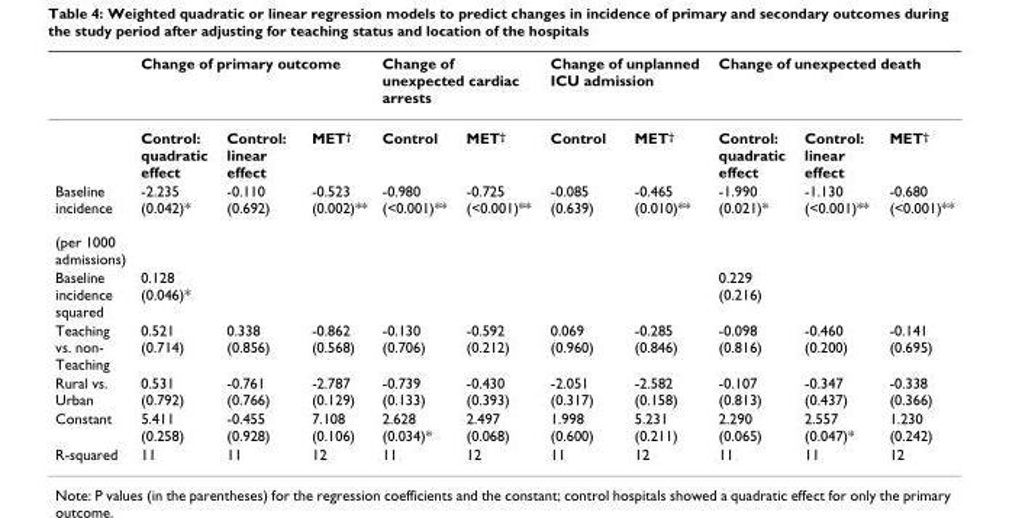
<table><thead><tr><td rowspan="2"></td><td colspan="3">Change of primary outcome</td><td colspan="2">Change of unexpected cardiac arrests</td><td colspan="2">Change of unplanned ICU admission</td><td colspan="3">Change of unexpected death</td></tr><tr><td>Control: quadratic effect</td><td>Control: linear effect</td><td>MET<sup>†</sup></td><td>Control</td><td>MET<sup>†</sup></td><td>Control</td><td>MET<sup>†</sup></td><td>Control: quadratic effect</td><td>Control: linear effect</td><td>MET<sup>†</sup></td></tr></thead><tbody><tr><td>Baseline incidence (per 1000 admissions)</td><td>-2.235 (0.042)*</td><td>-0.110 (0.692)</td><td>-0.523 (0.002)**</td><td>-0.980 (&lt;0.001)**</td><td>-0.725 (&lt;0.001)**</td><td>-0.085 (0.639)</td><td>-0.465 (0.010)**</td><td>-1.990 (0.021)*</td><td>-1.130 (&lt;0.001)**</td><td>-0.680 (&lt;0.001)**</td></tr><tr><td>Baseline incidence squared</td><td>0.128 (0.046)*</td><td></td><td></td><td></td><td></td><td></td><td></td><td>0.229 (0.216)</td><td></td><td></td></tr><tr><td>Teaching vs. non- Teaching</td><td>0.521 (0.714)</td><td>0.338 (0.856)</td><td>-0.862 (0.568)</td><td>-0.130 (0.706)</td><td>-0.592 (0.212)</td><td>0.069 (0.960)</td><td>-0.285 (0.846)</td><td>-0.098 (0.816)</td><td>-0.460 (0.200)</td><td>-0.141 (0.695)</td></tr><tr><td>Rural vs. Urban</td><td>0.531 (0.792)</td><td>-0.761 (0.766)</td><td>-2.787 (0.129)</td><td>-0.739 (0.133)</td><td>-0.430 (0.393)</td><td>-2.051 (0.317)</td><td>-2.582 (0.158)</td><td>-0.107 (0.813)</td><td>-0.347 (0.437)</td><td>-0.338 (0.366)</td></tr><tr><td>Constant</td><td>5.411 (0.258)</td><td>-0.455 (0.928)</td><td>7.108 (0.106)</td><td>2.628 (0.034)*</td><td>2.497 (0.068)</td><td>1.998 (0.600)</td><td>5.231 (0.211)</td><td>2.290 (0.065)</td><td>2.557 (0.047)*</td><td>1.230 (0.242)</td></tr><tr><td>R-squared</td><td>11</td><td>11</td><td>12</td><td>11</td><td>12</td><td>11</td><td>12</td><td>11</td><td>11</td><td>12</td></tr></tbody></table>